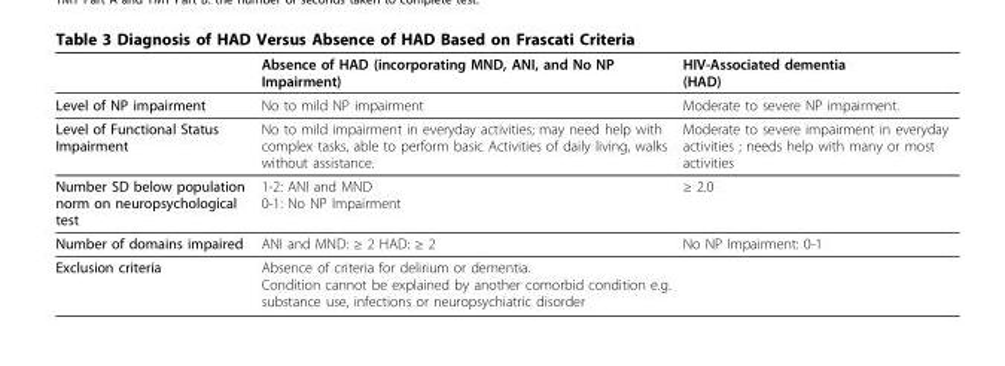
<table><thead><tr><td></td><td>Absence of HAD (incorporating MND, ANI, and No NP Impairment)</td><td>HIV-Associated dementia (HAD)</td></tr></thead><tbody><tr><td>Level of NP impairment</td><td>No to mild NP impairment</td><td>Moderate to severe NP impairment.</td></tr><tr><td>Level of Functional Status Impairment</td><td>No to mild impairment in everyday activities; may need help with complex tasks, able to perform basic Activities of daily living, walks without assistance.</td><td>Moderate to severe impairment in everyday activities ; needs help with many or most activities</td></tr><tr><td>Number SD below population norm on neuropsychological test</td><td>1-2: ANI and MND 0-1: No NP Impairment</td><td>≥ 2.0</td></tr><tr><td>Number of domains impaired</td><td>ANI and MND: ≥ 2 HAD: ≥ 2</td><td>No NP Impairment: 0-1</td></tr><tr><td>Exclusion criteria</td><td>Absence of criteria for delirium or dementia. Condition cannot be explained by another comorbid condition e.g. substance use, infections or neuropsychiatric disorder</td><td></td></tr></tbody></table>